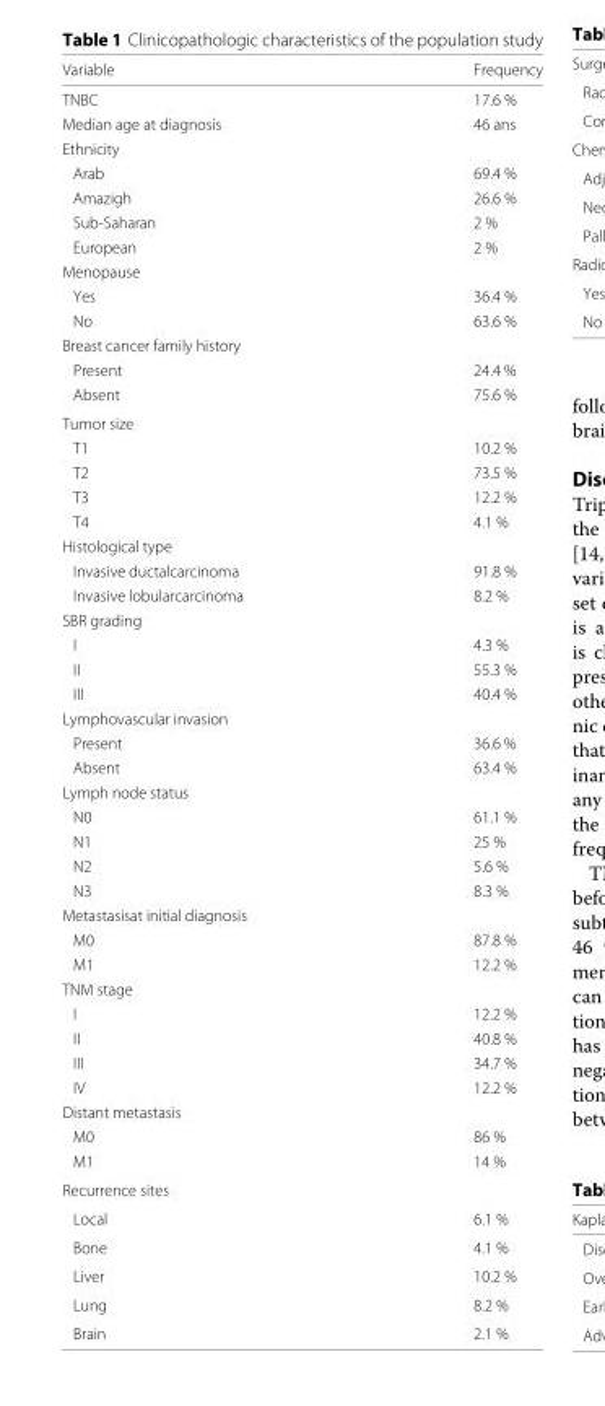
<table><thead><tr><td>Variable</td><td>Frequency</td></tr></thead><tbody><tr><td>TNBC</td><td>17.6 %</td></tr><tr><td>Median age at diagnosis</td><td>46 ans</td></tr><tr><td colspan="2">Ethnicity</td></tr><tr><td>Arab</td><td>69.4 %</td></tr><tr><td>Amazigh</td><td>26.6 %</td></tr><tr><td>Sub-Saharan</td><td>2 %</td></tr><tr><td>European</td><td>2 %</td></tr><tr><td colspan="2">Menopause</td></tr><tr><td>Yes</td><td>36.4 %</td></tr><tr><td>No</td><td>63.6 %</td></tr><tr><td colspan="2">Breast cancer family history</td></tr><tr><td>Present</td><td>24.4 %</td></tr><tr><td>Absent</td><td>75.6 %</td></tr><tr><td colspan="2">Tumor size</td></tr><tr><td>T1</td><td>10.2 %</td></tr><tr><td>T2</td><td>73.5 %</td></tr><tr><td>T3</td><td>12.2 %</td></tr><tr><td>T4</td><td>4.1 %</td></tr><tr><td colspan="2">Histological type</td></tr><tr><td>Invasive ductalcarcinoma</td><td>91.8 %</td></tr><tr><td>Invasive lobularcarcinoma</td><td>8.2 %</td></tr><tr><td colspan="2">SBR grading</td></tr><tr><td>I</td><td>4.3 %</td></tr><tr><td>II</td><td>55.3 %</td></tr><tr><td>III</td><td>40.4 %</td></tr><tr><td colspan="2">Lymphovascular invasion</td></tr><tr><td>Present</td><td>36.6 %</td></tr><tr><td>Absent</td><td>63.4 %</td></tr><tr><td colspan="2">Lymph node status</td></tr><tr><td>N0</td><td>61.1 %</td></tr><tr><td>N1</td><td>25 %</td></tr><tr><td>N2</td><td>5.6 %</td></tr><tr><td>N3</td><td>8.3 %</td></tr><tr><td colspan="2">Metastasisat initial diagnosis</td></tr><tr><td>M0</td><td>87.8 %</td></tr><tr><td>M1</td><td>12.2 %</td></tr><tr><td colspan="2">TNM stage</td></tr><tr><td>I</td><td>12.2 %</td></tr><tr><td>II</td><td>40.8 %</td></tr><tr><td>III</td><td>34.7 %</td></tr><tr><td>IV</td><td>12.2 %</td></tr><tr><td colspan="2">Distant metastasis</td></tr><tr><td>M0</td><td>86 %</td></tr><tr><td>M1</td><td>14 %</td></tr><tr><td colspan="2">Recurrence sites</td></tr><tr><td>Local</td><td>6.1 %</td></tr><tr><td>Bone</td><td>4.1 %</td></tr><tr><td>Liver</td><td>10.2 %</td></tr><tr><td>Lung</td><td>8.2 %</td></tr><tr><td>Brain</td><td>2.1 %</td></tr></tbody></table>